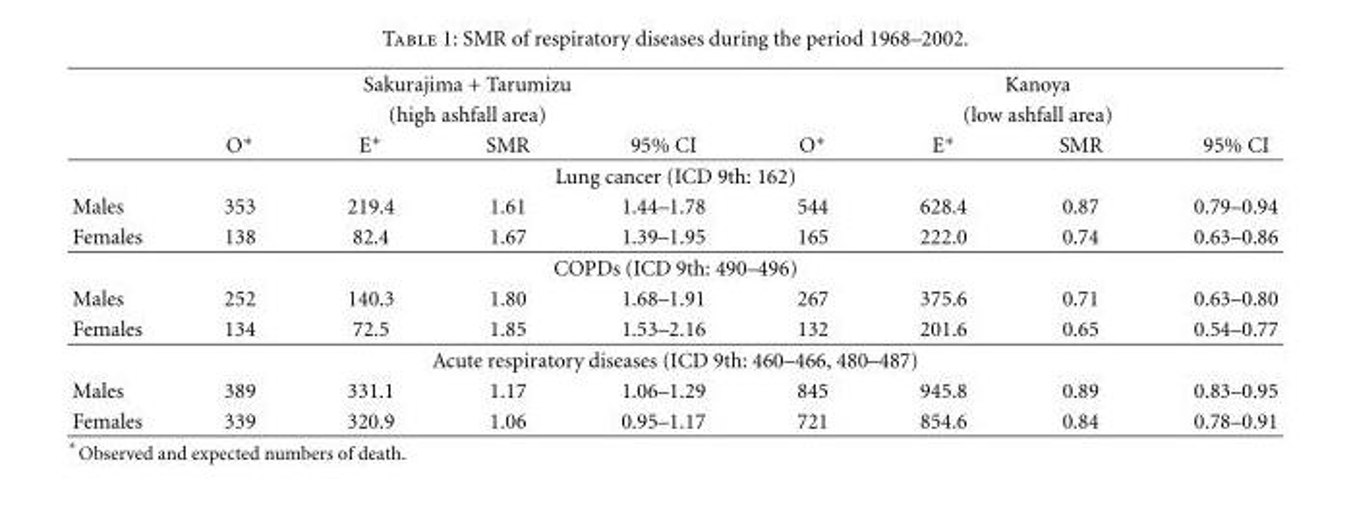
<table><thead><tr><td rowspan="3"></td><td rowspan="2" colspan="4">Sakurajima + Tarumizu (high ashfall area)</td><td rowspan="2" colspan="4">Kanoya (low ashfall area)</td></tr><tr></tr><tr><td>O∗</td><td>E∗</td><td>SMR</td><td>95% CI</td><td>O∗</td><td>E∗</td><td>SMR</td><td>95% CI</td></tr></thead><tbody><tr><td colspan="9">Lung cancer (ICD 9th: 162)</td></tr><tr><td>Males</td><td>353</td><td>219.4</td><td>1.61</td><td>1.44–1.78</td><td>544</td><td>628.4</td><td>0.87</td><td>0.79–0.94</td></tr><tr><td>Females</td><td>138</td><td>82.4</td><td>1.67</td><td>1.39–1.95</td><td>165</td><td>222.0</td><td>0.74</td><td>0.63–0.86</td></tr><tr><td colspan="9">COPDs (ICD 9th: 490–496)</td></tr><tr><td>Males</td><td>252</td><td>140.3</td><td>1.80</td><td>1.68–1.91</td><td>267</td><td>375.6</td><td>0.71</td><td>0.63–0.80</td></tr><tr><td>Females</td><td>134</td><td>72.5</td><td>1.85</td><td>1.53–2.16</td><td>132</td><td>201.6</td><td>0.65</td><td>0.54–0.77</td></tr><tr><td colspan="9">Acute respiratory diseases (ICD 9th: 460–466, 480–487)</td></tr><tr><td>Males</td><td>389</td><td>331.1</td><td>1.17</td><td>1.06–1.29</td><td>845</td><td>945.8</td><td>0.89</td><td>0.83–0.95</td></tr><tr><td>Females</td><td>339</td><td>320.9</td><td>1.06</td><td>0.95–1.17</td><td>721</td><td>854.6</td><td>0.84</td><td>0.78–0.91</td></tr></tbody></table>